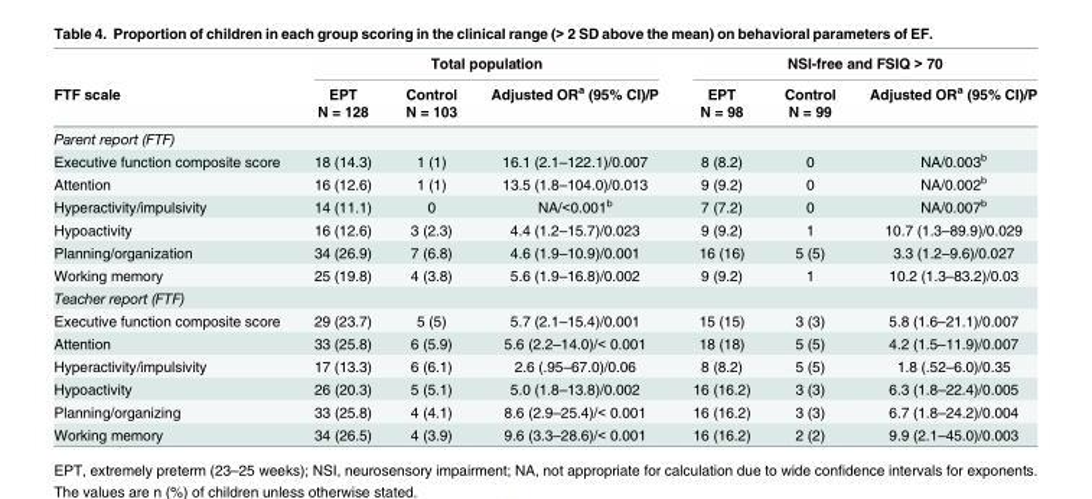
<table><thead><tr><td rowspan="3">FTF scale</td><td colspan="3">Total population</td><td colspan="3">NSI-free and FSIQ &gt; 70</td></tr><tr><td rowspan="2">EPT N = 128</td><td rowspan="2">Control N = 103</td><td rowspan="2">Adjusted OR<sup>a</sup> (95% CI)/P</td><td rowspan="2">EPT N = 98</td><td rowspan="2">Control N = 99</td><td rowspan="2">Adjusted OR<sup>a</sup> (95% CI)/P</td></tr><tr></tr></thead><tbody><tr><td colspan="7">Parent report (FTF)</td></tr><tr><td>Executive function composite score</td><td>18 (14.3)</td><td>1 (1)</td><td>16.1 (2.1–122.1)/0.007</td><td>8 (8.2)</td><td>0</td><td>NA/0.003<sup>b</sup></td></tr><tr><td>Attention</td><td>16 (12.6)</td><td>1 (1)</td><td>13.5 (1.8–104.0)/0.013</td><td>9 (9.2)</td><td>0</td><td>NA/0.002<sup>b</sup></td></tr><tr><td>Hyperactivity/impulsivity</td><td>14 (11.1)</td><td>0</td><td>NA/&lt;0.001<sup>b</sup></td><td>7 (7.2)</td><td>0</td><td>NA/0.007<sup>b</sup></td></tr><tr><td>Hypoactivity</td><td>16 (12.6)</td><td>3 (2.3)</td><td>4.4 (1.2–15.7)/0.023</td><td>9 (9.2)</td><td>1</td><td>10.7 (1.3–89.9)/0.029</td></tr><tr><td>Planning/organization</td><td>34 (26.9)</td><td>7 (6.8)</td><td>4.6 (1.9–10.9)/0.001</td><td>16 (16)</td><td>5 (5)</td><td>3.3 (1.2–9.6)/0.027</td></tr><tr><td>Working memory</td><td>25 (19.8)</td><td>4 (3.8)</td><td>5.6 (1.9–16.8)/0.002</td><td>9 (9.2)</td><td>1</td><td>10.2 (1.3–83.2)/0.03</td></tr><tr><td colspan="7">Teacher report (FTF)</td></tr><tr><td>Executive function composite score</td><td>29 (23.7)</td><td>5 (5)</td><td>5.7 (2.1–15.4)/0.001</td><td>15 (15)</td><td>3 (3)</td><td>5.8 (1.6–21.1)/0.007</td></tr><tr><td>Attention</td><td>33 (25.8)</td><td>6 (5.9)</td><td>5.6 (2.2–14.0)/&lt; 0.001</td><td>18 (18)</td><td>5 (5)</td><td>4.2 (1.5–11.9)/0.007</td></tr><tr><td>Hyperactivity/impulsivity</td><td>17 (13.3)</td><td>6 (6.1)</td><td>2.6 (.95–67.0)/0.06</td><td>8 (8.2)</td><td>5 (5)</td><td>1.8 (.52–6.0)/0.35</td></tr><tr><td>Hypoactivity</td><td>26 (20.3)</td><td>5 (5.1)</td><td>5.0 (1.8–13.8)/0.002</td><td>16 (16.2)</td><td>3 (3)</td><td>6.3 (1.8–22.4)/0.005</td></tr><tr><td>Planning/organizing</td><td>33 (25.8)</td><td>4 (4.1)</td><td>8.6 (2.9–25.4)/&lt; 0.001</td><td>16 (16.2)</td><td>3 (3)</td><td>6.7 (1.8–24.2)/0.004</td></tr><tr><td>Working memory</td><td>34 (26.5)</td><td>4 (3.9)</td><td>9.6 (3.3–28.6)/&lt; 0.001</td><td>16 (16.2)</td><td>2 (2)</td><td>9.9 (2.1–45.0)/0.003</td></tr></tbody></table>